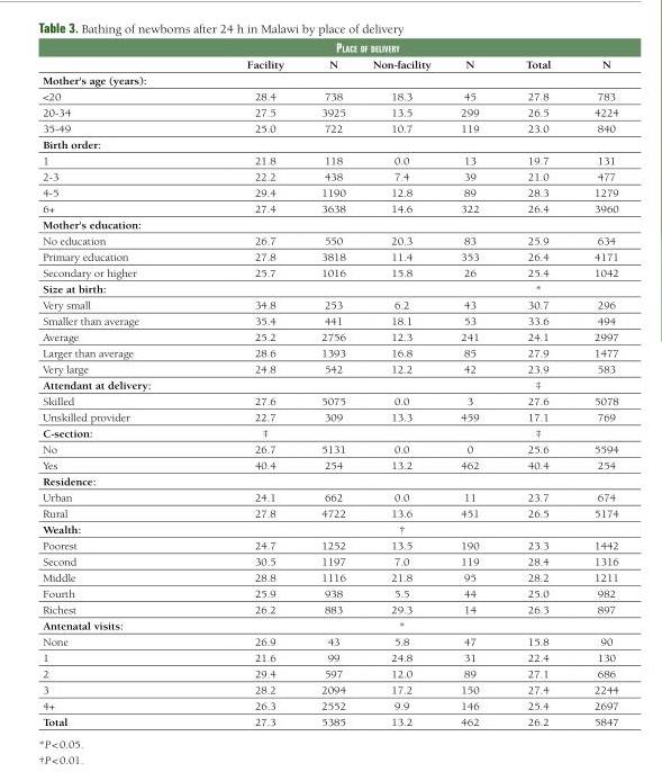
<table><thead><tr><td rowspan="2"></td><td colspan="4">Place of delivery</td><td rowspan="2">Total</td><td rowspan="2">N</td></tr><tr><td>Facility</td><td>N</td><td>Non-facility</td><td>N</td></tr></thead><tbody><tr><td colspan="7">Mother&#x27;s age (years):</td></tr><tr><td>&lt;20</td><td>28.4</td><td>738</td><td>18.3</td><td>45</td><td>27.8</td><td>783</td></tr><tr><td>20-34</td><td>27.5</td><td>3925</td><td>13.5</td><td>299</td><td>26.5</td><td>4224</td></tr><tr><td>35-49</td><td>25.0</td><td>722</td><td>10.7</td><td>119</td><td>23.0</td><td>840</td></tr><tr><td colspan="7">Birth order:</td></tr><tr><td>1</td><td>21.8</td><td>118</td><td>0.0</td><td>13</td><td>19.7</td><td>131</td></tr><tr><td>2-3</td><td>22.2</td><td>438</td><td>7.4</td><td>39</td><td>21.0</td><td>477</td></tr><tr><td>4-5</td><td>29.4</td><td>1190</td><td>12.8</td><td>89</td><td>28.3</td><td>1279</td></tr><tr><td>6+</td><td>27.4</td><td>3638</td><td>14.6</td><td>322</td><td>26.4</td><td>3960</td></tr><tr><td colspan="7">Mother&#x27;s education:</td></tr><tr><td>No education</td><td>26.7</td><td>550</td><td>20.3</td><td>83</td><td>25.9</td><td>634</td></tr><tr><td>Primary education</td><td>27.8</td><td>3818</td><td>11.4</td><td>353</td><td>26.4</td><td>4171</td></tr><tr><td>Secondary or higher</td><td>25.7</td><td>1016</td><td>15.8</td><td>26</td><td>25.4</td><td>1042</td></tr><tr><td>Size at birth:</td><td></td><td></td><td></td><td></td><td>*</td><td></td></tr><tr><td>Very small</td><td>34.8</td><td>253</td><td>6.2</td><td>43</td><td>30.7</td><td>296</td></tr><tr><td>Smaller than average</td><td>35.4</td><td>441</td><td>18.1</td><td>53</td><td>33.6</td><td>494</td></tr><tr><td>Average</td><td>25.2</td><td>2756</td><td>12.3</td><td>241</td><td>24.1</td><td>2997</td></tr><tr><td>Larger than average</td><td>28.6</td><td>1393</td><td>16.8</td><td>85</td><td>27.9</td><td>1477</td></tr><tr><td>Very large</td><td>24.8</td><td>542</td><td>12.2</td><td>42</td><td>23.9</td><td>583</td></tr><tr><td>Attendant at delivery:</td><td></td><td></td><td></td><td></td><td>‡</td><td></td></tr><tr><td>Skilled</td><td>27.6</td><td>5075</td><td>0.0</td><td>3</td><td>27.6</td><td>5078</td></tr><tr><td>Unskilled provider</td><td>22.7</td><td>309</td><td>13.3</td><td>459</td><td>17.1</td><td>769</td></tr><tr><td>C-section:</td><td>‡</td><td></td><td></td><td></td><td>‡</td><td></td></tr><tr><td>No</td><td>26.7</td><td>5131</td><td>0.0</td><td>0</td><td>25.6</td><td>5594</td></tr><tr><td>Yes</td><td>40.4</td><td>254</td><td>13.2</td><td>462</td><td>40.4</td><td>254</td></tr><tr><td colspan="7">Residence:</td></tr><tr><td>Urban</td><td>24.1</td><td>662</td><td>0.0</td><td>11</td><td>23.7</td><td>674</td></tr><tr><td>Rural</td><td>27.8</td><td>4722</td><td>13.6</td><td>451</td><td>26.5</td><td>5174</td></tr><tr><td>Wealth:</td><td></td><td></td><td>†</td><td></td><td></td><td></td></tr><tr><td>Poorest</td><td>24.7</td><td>1252</td><td>13.5</td><td>190</td><td>23.3</td><td>1442</td></tr><tr><td>Second</td><td>30.5</td><td>1197</td><td>7.0</td><td>119</td><td>28.4</td><td>1316</td></tr><tr><td>Middle</td><td>28.8</td><td>1116</td><td>21.8</td><td>95</td><td>28.2</td><td>1211</td></tr><tr><td>Fourth</td><td>25.9</td><td>938</td><td>5.5</td><td>44</td><td>25.0</td><td>982</td></tr><tr><td>Richest</td><td>26.2</td><td>883</td><td>29.3</td><td>14</td><td>26.3</td><td>897</td></tr><tr><td>Antenatal visits:</td><td></td><td></td><td>*</td><td></td><td></td><td></td></tr><tr><td>None</td><td>26.9</td><td>43</td><td>5.8</td><td>47</td><td>15.8</td><td>90</td></tr><tr><td>1</td><td>21.6</td><td>99</td><td>24.8</td><td>31</td><td>22.4</td><td>130</td></tr><tr><td>2</td><td>29.4</td><td>597</td><td>12.0</td><td>89</td><td>27.1</td><td>686</td></tr><tr><td>3</td><td>28.2</td><td>2094</td><td>17.2</td><td>150</td><td>27.4</td><td>2244</td></tr><tr><td>4+</td><td>26.3</td><td>2552</td><td>9.9</td><td>146</td><td>25.4</td><td>2697</td></tr><tr><td>Total</td><td>27.3</td><td>5385</td><td>13.2</td><td>462</td><td>26.2</td><td>5847</td></tr></tbody></table>